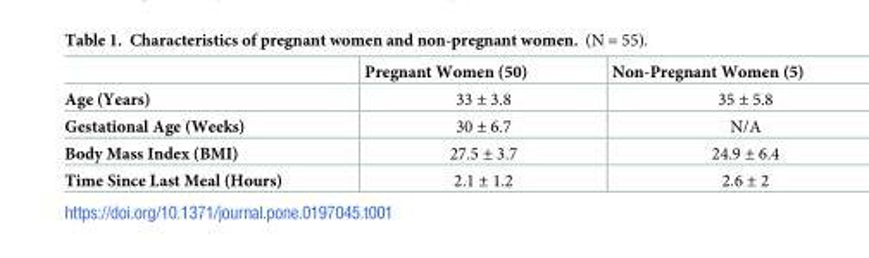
<table><thead><tr><td></td><td>Pregnant Women (50)</td><td>Non-Pregnant Women (5)</td></tr></thead><tbody><tr><td>Age (Years)</td><td>33 ± 3.8</td><td>35 ± 5.8</td></tr><tr><td>Gestational Age (Weeks)</td><td>30 ± 6.7</td><td>N/A</td></tr><tr><td>Body Mass Index (BMI)</td><td>27.5 ± 3.7</td><td>24.9 ± 6.4</td></tr><tr><td>Time Since Last Meal (Hours)</td><td>2.1 ± 1.2</td><td>2.6 ± 2</td></tr></tbody></table>